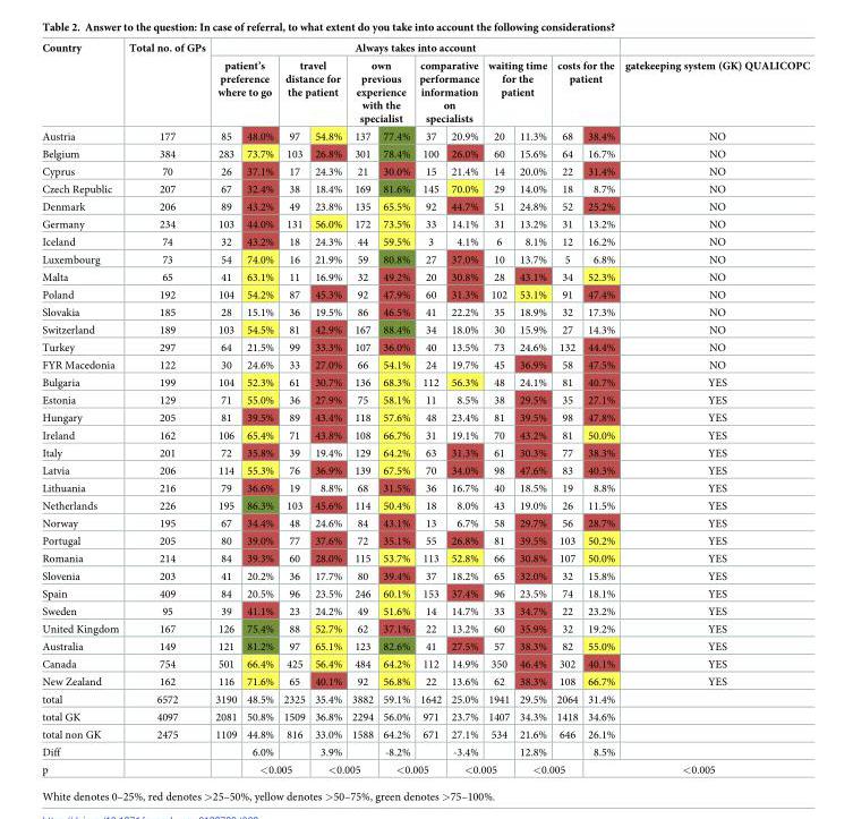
<table><thead><tr><td rowspan="3">Country Austria</td><td rowspan="3">Total no. of GPs 177</td><td colspan="12">Always takes into account</td><td rowspan="3">gatekeeping system (GK) QUALICOPC NO</td></tr><tr><td colspan="2">patient’s preference where to go</td><td colspan="2">travel distance for the patient</td><td colspan="2">own previous experience with the specialist</td><td colspan="2">comparative performance information on specialists</td><td colspan="2">waiting time for the patient</td><td colspan="2">costs for the patient</td></tr><tr><td>85</td><td>48.0%</td><td>97</td><td>54.8%</td><td>137</td><td>77.4%</td><td>37</td><td>20.9%</td><td>20</td><td>11.3%</td><td>68</td><td>38.4%</td></tr></thead><tbody><tr><td>Belgium</td><td>384</td><td>283</td><td>73.7%</td><td>103</td><td>26.8%</td><td>301</td><td>78.4%</td><td>100</td><td>26.0%</td><td>60</td><td>15.6%</td><td>64</td><td>16.7%</td><td>NO</td></tr><tr><td>Cyprus</td><td>70</td><td>26</td><td>37.1%</td><td>17</td><td>24.3%</td><td>21</td><td>30.0%</td><td>15</td><td>21.4%</td><td>14</td><td>20.0%</td><td>22</td><td>31.4%</td><td>NO</td></tr><tr><td>Czech Republic</td><td>207</td><td>67</td><td>32.4%</td><td>38</td><td>18.4%</td><td>169</td><td>81.6%</td><td>145</td><td>70.0%</td><td>29</td><td>14.0%</td><td>18</td><td>8.7%</td><td>NO</td></tr><tr><td>Denmark</td><td>206</td><td>89</td><td>43.2%</td><td>49</td><td>23.8%</td><td>135</td><td>65.5%</td><td>92</td><td>44.7%</td><td>51</td><td>24.8%</td><td>52</td><td>25.2%</td><td>NO</td></tr><tr><td>Germany</td><td>234</td><td>103</td><td>44.0%</td><td>131</td><td>56.0%</td><td>172</td><td>73.5%</td><td>33</td><td>14.1%</td><td>31</td><td>13.2%</td><td>31</td><td>13.2%</td><td>NO</td></tr><tr><td>Iceland</td><td>74</td><td>32</td><td>43.2%</td><td>18</td><td>24.3%</td><td>44</td><td>59.5%</td><td>3</td><td>4.1%</td><td>6</td><td>8.1%</td><td>12</td><td>16.2%</td><td>NO</td></tr><tr><td>Luxembourg</td><td>73</td><td>54</td><td>74.0%</td><td>16</td><td>21.9%</td><td>59</td><td>80.8%</td><td>27</td><td>37.0%</td><td>10</td><td>13.7%</td><td>5</td><td>6.8%</td><td>NO</td></tr><tr><td>Malta</td><td>65</td><td>41</td><td>63.1%</td><td>11</td><td>16.9%</td><td>32</td><td>49.2%</td><td>20</td><td>30.8%</td><td>28</td><td>43.1%</td><td>34</td><td>52.3%</td><td>NO</td></tr><tr><td>Poland</td><td>192</td><td>104</td><td>54.2%</td><td>87</td><td>45.3%</td><td>92</td><td>47.9%</td><td>60</td><td>31.3%</td><td>102</td><td>53.1%</td><td>91</td><td>47.4%</td><td>NO</td></tr><tr><td>Slovakia</td><td>185</td><td>28</td><td>15.1%</td><td>36</td><td>19.5%</td><td>86</td><td>46.5%</td><td>41</td><td>22.2%</td><td>35</td><td>18.9%</td><td>32</td><td>17.3%</td><td>NO</td></tr><tr><td>Switzerland</td><td>189</td><td>103</td><td>54.5%</td><td>81</td><td>42.9%</td><td>167</td><td>88.4%</td><td>34</td><td>18.0%</td><td>30</td><td>15.9%</td><td>27</td><td>14.3%</td><td>NO</td></tr><tr><td>Turkey</td><td>297</td><td>64</td><td>21.5%</td><td>99</td><td>33.3%</td><td>107</td><td>36.0%</td><td>40</td><td>13.5%</td><td>73</td><td>24.6%</td><td>132</td><td>44.4%</td><td>NO</td></tr><tr><td>FYR Macedonia</td><td>122</td><td>30</td><td>24.6%</td><td>33</td><td>27.0%</td><td>66</td><td>54.1%</td><td>24</td><td>19.7%</td><td>45</td><td>36.9%</td><td>58</td><td>47.5%</td><td>NO</td></tr><tr><td>Bulgaria</td><td>199</td><td>104</td><td>52.3%</td><td>61</td><td>30.7%</td><td>136</td><td>68.3%</td><td>112</td><td>56.3%</td><td>48</td><td>24.1%</td><td>81</td><td>40.7%</td><td>YES</td></tr><tr><td>Estonia</td><td>129</td><td>71</td><td>55.0%</td><td>36</td><td>27.9%</td><td>75</td><td>58.1%</td><td>11</td><td>8.5%</td><td>38</td><td>29.5%</td><td>35</td><td>27.1%</td><td>YES</td></tr><tr><td>Hungary</td><td>205</td><td>81</td><td>39.5%</td><td>89</td><td>43.4%</td><td>118</td><td>57.6%</td><td>48</td><td>23.4%</td><td>81</td><td>39.5%</td><td>98</td><td>47.8%</td><td>YES</td></tr><tr><td>Ireland</td><td>162</td><td>106</td><td>65.4%</td><td>71</td><td>43.8%</td><td>108</td><td>66.7%</td><td>31</td><td>19.1%</td><td>70</td><td>43.2%</td><td>81</td><td>50.0%</td><td>YES</td></tr><tr><td>Italy</td><td>201</td><td>72</td><td>35.8%</td><td>39</td><td>19.4%</td><td>129</td><td>64.2%</td><td>63</td><td>31.3%</td><td>61</td><td>30.3%</td><td>77</td><td>38.3%</td><td>YES</td></tr><tr><td>Latvia</td><td>206</td><td>114</td><td>55.3%</td><td>76</td><td>36.9%</td><td>139</td><td>67.5%</td><td>70</td><td>34.0%</td><td>98</td><td>47.6%</td><td>83</td><td>40.3%</td><td>YES</td></tr><tr><td>Lithuania</td><td>216</td><td>79</td><td>36.6%</td><td>19</td><td>8.8%</td><td>68</td><td>31.5%</td><td>36</td><td>16.7%</td><td>40</td><td>18.5%</td><td>19</td><td>8.8%</td><td>YES</td></tr><tr><td>Netherlands</td><td>226</td><td>195</td><td>86.3%</td><td>103</td><td>45.6%</td><td>114</td><td>50.4%</td><td>18</td><td>8.0%</td><td>43</td><td>19.0%</td><td>26</td><td>11.5%</td><td>YES</td></tr><tr><td>Norway</td><td>195</td><td>67</td><td>34.4%</td><td>48</td><td>24.6%</td><td>84</td><td>43.1%</td><td>13</td><td>6.7%</td><td>58</td><td>29.7%</td><td>56</td><td>28.7%</td><td>YES</td></tr><tr><td>Portugal</td><td>205</td><td>80</td><td>39.0%</td><td>77</td><td>37.6%</td><td>72</td><td>35.1%</td><td>55</td><td>26.8%</td><td>81</td><td>39.5%</td><td>103</td><td>50.2%</td><td>YES</td></tr><tr><td>Romania</td><td>214</td><td>84</td><td>39.3%</td><td>60</td><td>28.0%</td><td>115</td><td>53.7%</td><td>113</td><td>52.8%</td><td>66</td><td>30.8%</td><td>107</td><td>50.0%</td><td>YES</td></tr><tr><td>Slovenia</td><td>203</td><td>41</td><td>20.2%</td><td>36</td><td>17.7%</td><td>80</td><td>39.4%</td><td>37</td><td>18.2%</td><td>65</td><td>32.0%</td><td>32</td><td>15.8%</td><td>YES</td></tr><tr><td>Spain</td><td>409</td><td>84</td><td>20.5%</td><td>96</td><td>23.5%</td><td>246</td><td>60.1%</td><td>153</td><td>37.4%</td><td>96</td><td>23.5%</td><td>74</td><td>18.1%</td><td>YES</td></tr><tr><td>Sweden</td><td>95</td><td>39</td><td>41.1%</td><td>23</td><td>24.2%</td><td>49</td><td>51.6%</td><td>14</td><td>14.7%</td><td>33</td><td>34.7%</td><td>22</td><td>23.2%</td><td>YES</td></tr><tr><td>United Kingdom</td><td>167</td><td>126</td><td>75.4%</td><td>88</td><td>52.7%</td><td>62</td><td>37.1%</td><td>22</td><td>13.2%</td><td>60</td><td>35.9%</td><td>32</td><td>19.2%</td><td>YES</td></tr><tr><td>Australia</td><td>149</td><td>121</td><td>81.2%</td><td>97</td><td>65.1%</td><td>123</td><td>82.6%</td><td>41</td><td>27.5%</td><td>57</td><td>38.3%</td><td>82</td><td>55.0%</td><td>YES</td></tr><tr><td>Canada</td><td>754</td><td>501</td><td>66.4%</td><td>425</td><td>56.4%</td><td>484</td><td>64.2%</td><td>112</td><td>14.9%</td><td>350</td><td>46.4%</td><td>302</td><td>40.1%</td><td>YES</td></tr><tr><td>New Zealand</td><td>162</td><td>116</td><td>71.6%</td><td>65</td><td>40.1%</td><td>92</td><td>56.8%</td><td>22</td><td>13.6%</td><td>62</td><td>38.3%</td><td>108</td><td>66.7%</td><td>YES</td></tr><tr><td>total</td><td>6572</td><td>3190</td><td>48.5%</td><td>2325</td><td>35.4%</td><td>3882</td><td>59.1%</td><td>1642</td><td>25.0%</td><td>1941</td><td>29.5%</td><td>2064</td><td>31.4%</td><td></td></tr><tr><td>total GK</td><td>4097</td><td>2081</td><td>50.8%</td><td>1509</td><td>36.8%</td><td>2294</td><td>56.0%</td><td>971</td><td>23.7%</td><td>1407</td><td>34.3%</td><td>1418</td><td>34.6%</td><td></td></tr><tr><td>total non GK</td><td>2475</td><td>1109</td><td>44.8%</td><td>816</td><td>33.0%</td><td>1588</td><td>64.2%</td><td>671</td><td>27.1%</td><td>534</td><td>21.6%</td><td>646</td><td>26.1%</td><td></td></tr><tr><td>Diff</td><td></td><td></td><td>6.0%</td><td></td><td>3.9%</td><td></td><td>-8.2%</td><td></td><td>-3.4%</td><td></td><td>12.8%</td><td></td><td>8.5%</td><td></td></tr><tr><td>p</td><td></td><td></td><td colspan="2">&lt;0.005</td><td colspan="2">&lt;0.005</td><td colspan="2">&lt;0.005</td><td colspan="2">&lt;0.005</td><td colspan="2">&lt;0.005</td><td colspan="2">&lt;0.005</td></tr></tbody></table>